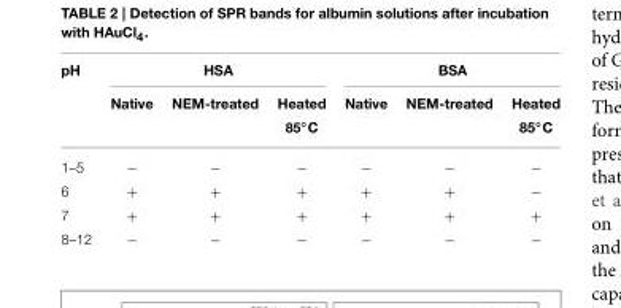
<table><thead><tr><td rowspan="3">pH</td><td colspan="3">HSA</td><td colspan="3">BSA</td></tr><tr><td rowspan="2">Native</td><td rowspan="2">NEM-treated</td><td rowspan="2">Heated 85◦C</td><td rowspan="2">Native</td><td rowspan="2">NEM-treated</td><td rowspan="2">Heated 85◦C</td></tr><tr></tr></thead><tbody><tr><td>1–5</td><td>−</td><td>−</td><td>−</td><td>−</td><td>−</td><td>−</td></tr><tr><td>6</td><td>+</td><td>+</td><td>+</td><td>+</td><td>+</td><td>−</td></tr><tr><td>7</td><td>+</td><td>+</td><td>+</td><td>+</td><td>+</td><td>+</td></tr><tr><td>8–12</td><td>−</td><td>−</td><td>−</td><td>−</td><td>−</td><td>−</td></tr></tbody></table>